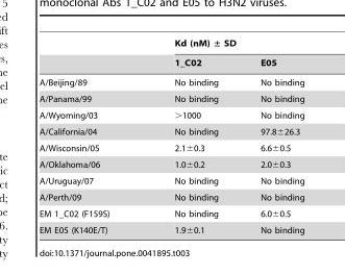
<table><thead><tr><td rowspan="2"></td><td colspan="2">Kd (nM) ± SD</td></tr><tr><td>1_C02</td><td>E05</td></tr></thead><tbody><tr><td>A/Beijing/89</td><td>No binding</td><td>No binding</td></tr><tr><td>A/Panama/99</td><td>No binding</td><td>No binding</td></tr><tr><td>A/Wyoming/03</td><td>&gt;1000</td><td>No binding</td></tr><tr><td>A/California/04</td><td>No binding</td><td>97.8±26.3</td></tr><tr><td>A/Wisconsin/05</td><td>2.1±0.3</td><td>6.6±0.5</td></tr><tr><td>A/Oklahoma/06</td><td>1.0±0.2</td><td>2.0±0.3</td></tr><tr><td>A/Uruguay/07</td><td>No binding</td><td>No binding</td></tr><tr><td>A/Perth/09</td><td>No binding</td><td>No binding</td></tr><tr><td>EM 1_C02 (F159S)</td><td>No binding</td><td>6.0±0.5</td></tr><tr><td>EM E05 (K140E/T)</td><td>1.9±0.1</td><td>No binding</td></tr></tbody></table>